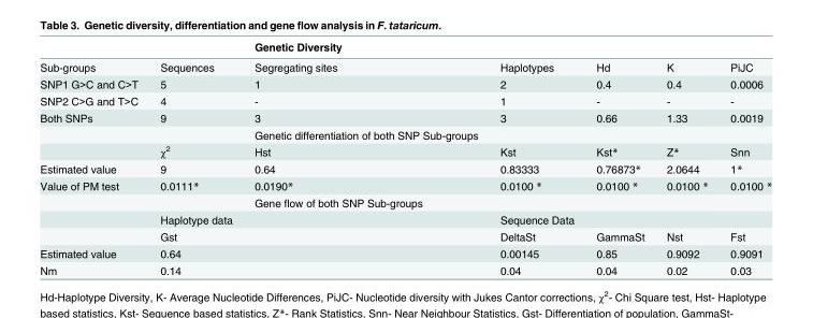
<table><thead><tr><td></td><td></td><td>Genetic Diversity</td><td></td><td></td><td></td><td></td></tr></thead><tbody><tr><td>Sub-groups</td><td>Sequences</td><td>Segregating sites</td><td>Haplotypes</td><td>Hd</td><td>K</td><td>PiJC</td></tr><tr><td>SNP1 G&gt;C and C&gt;T</td><td>5</td><td>1</td><td>2</td><td>0.4</td><td>0.4</td><td>0.0006</td></tr><tr><td>SNP2 C&gt;G and T&gt;C</td><td>4</td><td>-</td><td>1</td><td>-</td><td>-</td><td>-</td></tr><tr><td rowspan="3">Both SNPs</td><td>9</td><td>3</td><td>3</td><td>0.66</td><td>1.33</td><td>0.0019</td></tr><tr><td></td><td>Genetic differentiation of both SNP Sub-groups</td><td></td><td></td><td></td><td></td></tr><tr><td>χ<sup>2</sup></td><td>Hst</td><td>Kst</td><td>Kst*</td><td>Z*</td><td>Snn</td></tr><tr><td>Estimated value</td><td>9</td><td>0.64</td><td>0.83333</td><td>0.76873*</td><td>2.0644</td><td>1*</td></tr><tr><td rowspan="4">Value of PM test</td><td>0.0111*</td><td>0.0190*</td><td>0.0100 *</td><td>0.0100 *</td><td>0.0100 *</td><td>0.0100 *</td></tr><tr><td></td><td>Gene flow of both SNP Sub-groups</td><td></td><td></td><td></td><td></td></tr><tr><td>Haplotype data</td><td></td><td>Sequence Data</td><td></td><td></td><td></td></tr><tr><td>Gst</td><td></td><td>DeltaSt</td><td>GammaSt</td><td>Nst</td><td>Fst</td></tr><tr><td>Estimated value</td><td>0.64</td><td></td><td>0.00145</td><td>0.85</td><td>0.9092</td><td>0.9091</td></tr><tr><td>Nm</td><td>0.14</td><td></td><td>0.04</td><td>0.04</td><td>0.02</td><td>0.03</td></tr></tbody></table>